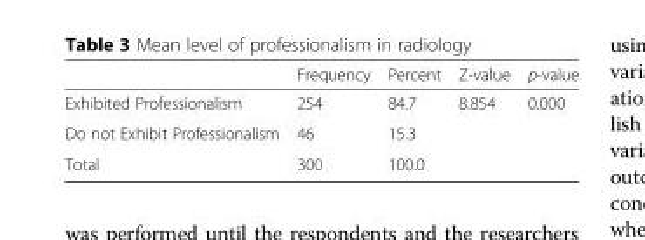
<table><thead><tr><td></td><td>Frequency</td><td>Percent</td><td>Z-value</td><td>p-value</td></tr></thead><tbody><tr><td>Exhibited Professionalism</td><td>254</td><td>84.7</td><td rowspan="3">8.854</td><td rowspan="3">0.000</td></tr><tr><td>Do not Exhibit Professionalism</td><td>46</td><td>15.3</td></tr><tr><td>Total</td><td>300</td><td>100.0</td></tr></tbody></table>